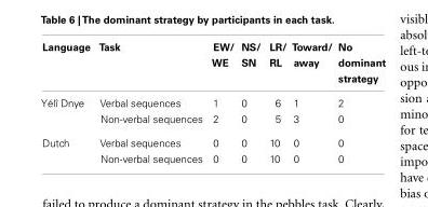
<table><thead><tr><td>Language</td><td>Task</td><td>EW/ WE</td><td>NS/ SN</td><td>LR/ RL</td><td>Toward/ away</td><td>No dominant strategy</td></tr></thead><tbody><tr><td rowspan="2">Yélî Dnye</td><td>Verbal sequences</td><td>1</td><td>0</td><td>6</td><td>1</td><td>2</td></tr><tr><td>Non-verbal sequences</td><td>2</td><td>0</td><td>5</td><td>3</td><td>0</td></tr><tr><td rowspan="2">Dutch</td><td>Verbal sequences</td><td>0</td><td>0</td><td>10</td><td>0</td><td>0</td></tr><tr><td>Non-verbal sequences</td><td>0</td><td>0</td><td>10</td><td>0</td><td>0</td></tr></tbody></table>